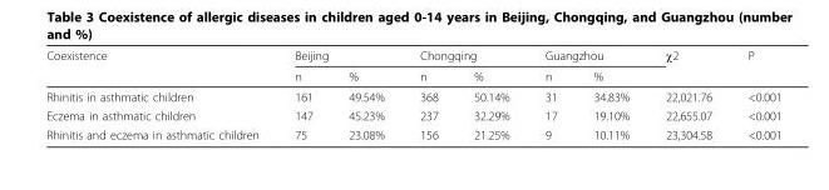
<table><thead><tr><td rowspan="2">Coexistence</td><td colspan="2">Beijing</td><td colspan="2">Chongqing</td><td colspan="2">Guangzhou</td><td rowspan="2">χ2</td><td rowspan="2">P</td></tr><tr><td>n</td><td>%</td><td>n</td><td>%</td><td>n</td><td>%</td></tr></thead><tbody><tr><td>Rhinitis in asthmatic children</td><td>161</td><td>49.54%</td><td>368</td><td>50.14%</td><td>31</td><td>34.83%</td><td>22,021.76</td><td>&lt;0.001</td></tr><tr><td>Eczema in asthmatic children</td><td>147</td><td>45.23%</td><td>237</td><td>32.29%</td><td>17</td><td>19.10%</td><td>22,655.07</td><td>&lt;0.001</td></tr><tr><td>Rhinitis and eczema in asthmatic children</td><td>75</td><td>23.08%</td><td>156</td><td>21.25%</td><td>9</td><td>10.11%</td><td>23,304.58</td><td>&lt;0.001</td></tr></tbody></table>